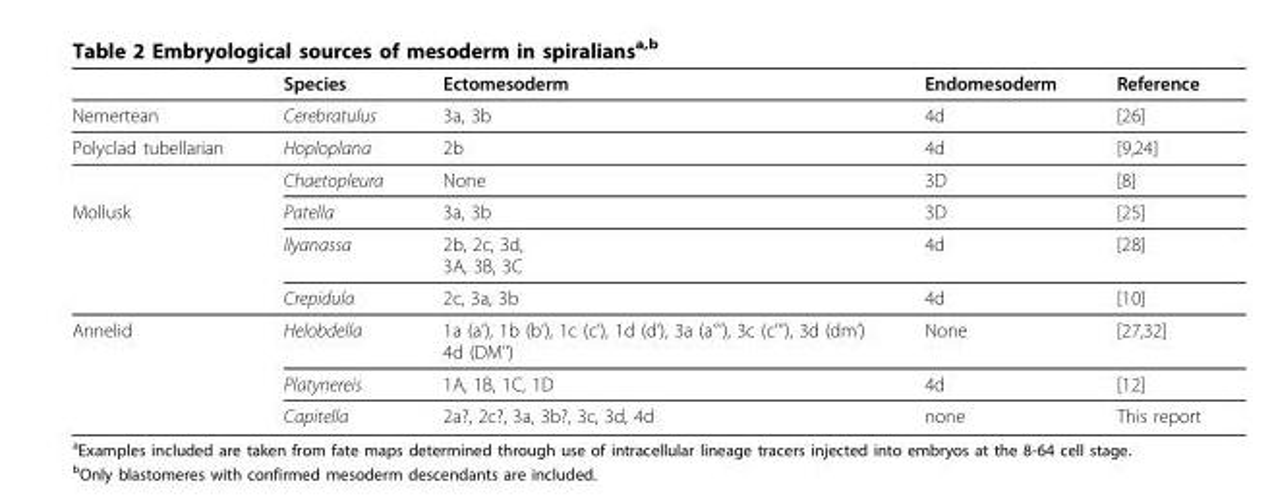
<table><thead><tr><td></td><td>Species</td><td>Ectomesoderm</td><td>Endomesoderm</td><td>Reference</td></tr></thead><tbody><tr><td>Nemertean</td><td>Cerebratulus</td><td>3a, 3b</td><td>4d</td><td>[26]</td></tr><tr><td rowspan="2">Polyclad tubellarian</td><td>Hoploplana</td><td>2b</td><td>4d</td><td>[9,24]</td></tr><tr><td>Chaetopleura</td><td>None</td><td>3D</td><td>[8]</td></tr><tr><td rowspan="3">Mollusk</td><td>Patella</td><td>3a, 3b</td><td>3D</td><td>[25]</td></tr><tr><td>Ilyanassa</td><td>2b, 2c, 3d, 3A, 3B, 3C</td><td>4d</td><td>[28]</td></tr><tr><td>Crepidula</td><td>2c, 3a, 3b</td><td>4d</td><td>[10]</td></tr><tr><td rowspan="3">Annelid</td><td>Helobdella</td><td>1a (a’), 1b (b’), 1c (c’), 1d (d’), 3a (a’’’), 3c (c’’’), 3d (dm’) 4d (DM’’)</td><td>None</td><td>[27,32]</td></tr><tr><td>Platynereis</td><td>1A, 1B, 1C, 1D</td><td>4d</td><td>[12]</td></tr><tr><td>Capitella</td><td>2a?, 2c?, 3a, 3b?, 3c, 3d, 4d</td><td>none</td><td>This report</td></tr></tbody></table>